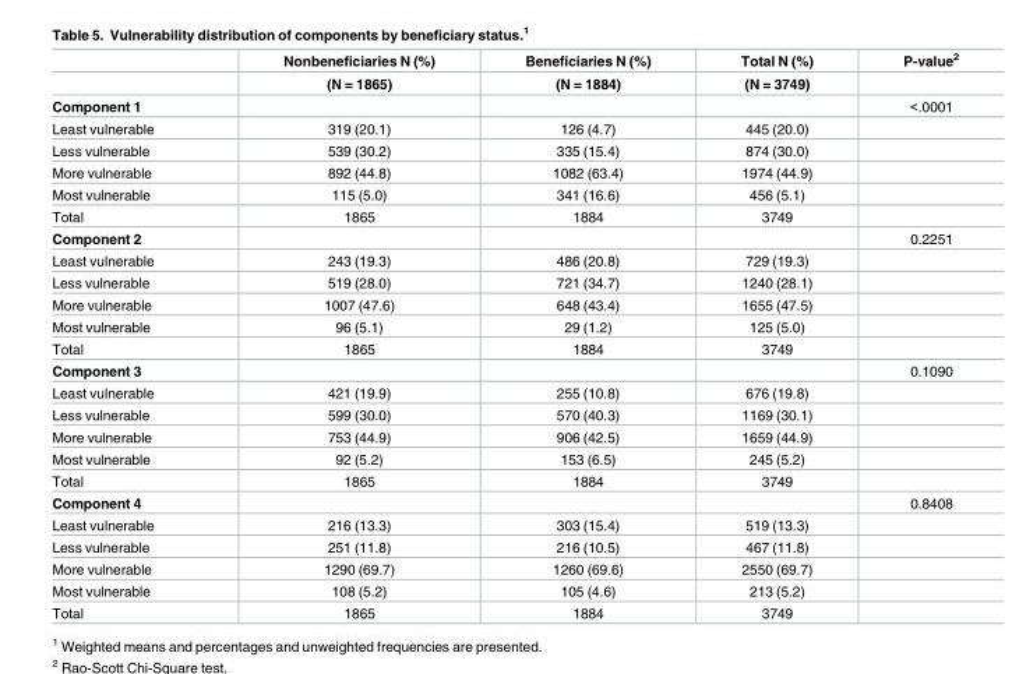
<table><thead><tr><td rowspan="2"></td><td rowspan="2">Nonbeneficiaries N (%) (N = 1865)</td><td rowspan="2">Beneficiaries N (%) (N = 1884)</td><td rowspan="2">Total N (%) (N = 3749)</td><td rowspan="2">P-value<sup>2</sup></td></tr><tr></tr></thead><tbody><tr><td>Component 1</td><td></td><td></td><td></td><td>&lt;.0001</td></tr><tr><td>Least vulnerable</td><td>319 (20.1)</td><td>126 (4.7)</td><td>445 (20.0)</td><td></td></tr><tr><td>Less vulnerable</td><td>539 (30.2)</td><td>335 (15.4)</td><td>874 (30.0)</td><td></td></tr><tr><td>More vulnerable</td><td>892 (44.8)</td><td>1082 (63.4)</td><td>1974 (44.9)</td><td></td></tr><tr><td>Most vulnerable</td><td>115 (5.0)</td><td>341 (16.6)</td><td>456 (5.1)</td><td></td></tr><tr><td>Total</td><td>1865</td><td>1884</td><td>3749</td><td></td></tr><tr><td>Component 2</td><td></td><td></td><td></td><td>0.2251</td></tr><tr><td>Least vulnerable</td><td>243 (19.3)</td><td>486 (20.8)</td><td>729 (19.3)</td><td></td></tr><tr><td>Less vulnerable</td><td>519 (28.0)</td><td>721 (34.7)</td><td>1240 (28.1)</td><td></td></tr><tr><td>More vulnerable</td><td>1007 (47.6)</td><td>648 (43.4)</td><td>1655 (47.5)</td><td></td></tr><tr><td>Most vulnerable</td><td>96 (5.1)</td><td>29 (1.2)</td><td>125 (5.0)</td><td></td></tr><tr><td>Total</td><td>1865</td><td>1884</td><td>3749</td><td></td></tr><tr><td>Component 3</td><td></td><td></td><td></td><td>0.1090</td></tr><tr><td>Least vulnerable</td><td>421 (19.9)</td><td>255 (10.8)</td><td>676 (19.8)</td><td></td></tr><tr><td>Less vulnerable</td><td>599 (30.0)</td><td>570 (40.3)</td><td>1169 (30.1)</td><td></td></tr><tr><td>More vulnerable</td><td>753 (44.9)</td><td>906 (42.5)</td><td>1659 (44.9)</td><td></td></tr><tr><td>Most vulnerable</td><td>92 (5.2)</td><td>153 (6.5)</td><td>245 (5.2)</td><td></td></tr><tr><td>Total</td><td>1865</td><td>1884</td><td>3749</td><td></td></tr><tr><td>Component 4</td><td></td><td></td><td></td><td>0.8408</td></tr><tr><td>Least vulnerable</td><td>216 (13.3)</td><td>303 (15.4)</td><td>519 (13.3)</td><td></td></tr><tr><td>Less vulnerable</td><td>251 (11.8)</td><td>216 (10.5)</td><td>467 (11.8)</td><td></td></tr><tr><td>More vulnerable</td><td>1290 (69.7)</td><td>1260 (69.6)</td><td>2550 (69.7)</td><td></td></tr><tr><td>Most vulnerable</td><td>108 (5.2)</td><td>105 (4.6)</td><td>213 (5.2)</td><td></td></tr><tr><td>Total</td><td>1865</td><td>1884</td><td>3749</td><td></td></tr></tbody></table>